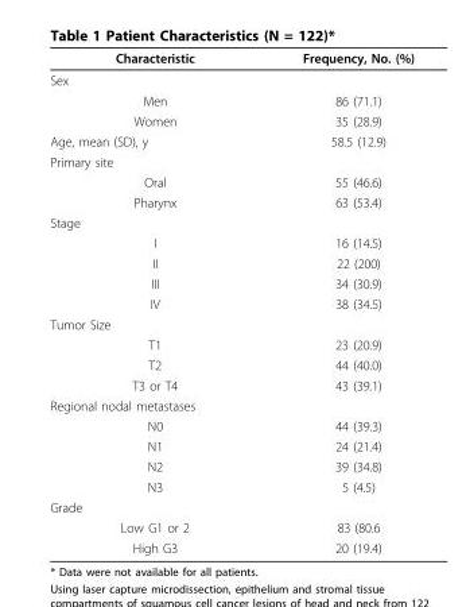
<table><thead><tr><td>Characteristic</td><td>Frequency, No. (%)</td></tr></thead><tbody><tr><td colspan="2">Sex</td></tr><tr><td>Men</td><td>86 (71.1)</td></tr><tr><td>Women</td><td>35 (28.9)</td></tr><tr><td>Age, mean (SD), y</td><td>58.5 (12.9)</td></tr><tr><td colspan="2">Primary site</td></tr><tr><td>Oral</td><td>55 (46.6)</td></tr><tr><td>Pharynx</td><td>63 (53.4)</td></tr><tr><td colspan="2">Stage</td></tr><tr><td>I</td><td>16 (14.5)</td></tr><tr><td>II</td><td>22 (200)</td></tr><tr><td>III</td><td>34 (30.9)</td></tr><tr><td>IV</td><td>38 (34.5)</td></tr><tr><td colspan="2">Tumor Size</td></tr><tr><td>T1</td><td>23 (20.9)</td></tr><tr><td>T2</td><td>44 (40.0)</td></tr><tr><td>T3 or T4</td><td>43 (39.1)</td></tr><tr><td colspan="2">Regional nodal metastases</td></tr><tr><td>N0</td><td>44 (39.3)</td></tr><tr><td>N1</td><td>24 (21.4)</td></tr><tr><td>N2</td><td>39 (34.8)</td></tr><tr><td>N3</td><td>5 (4.5)</td></tr><tr><td colspan="2">Grade</td></tr><tr><td>Low G1 or 2</td><td>83 (80.6</td></tr><tr><td>High G3</td><td>20 (19.4)</td></tr></tbody></table>